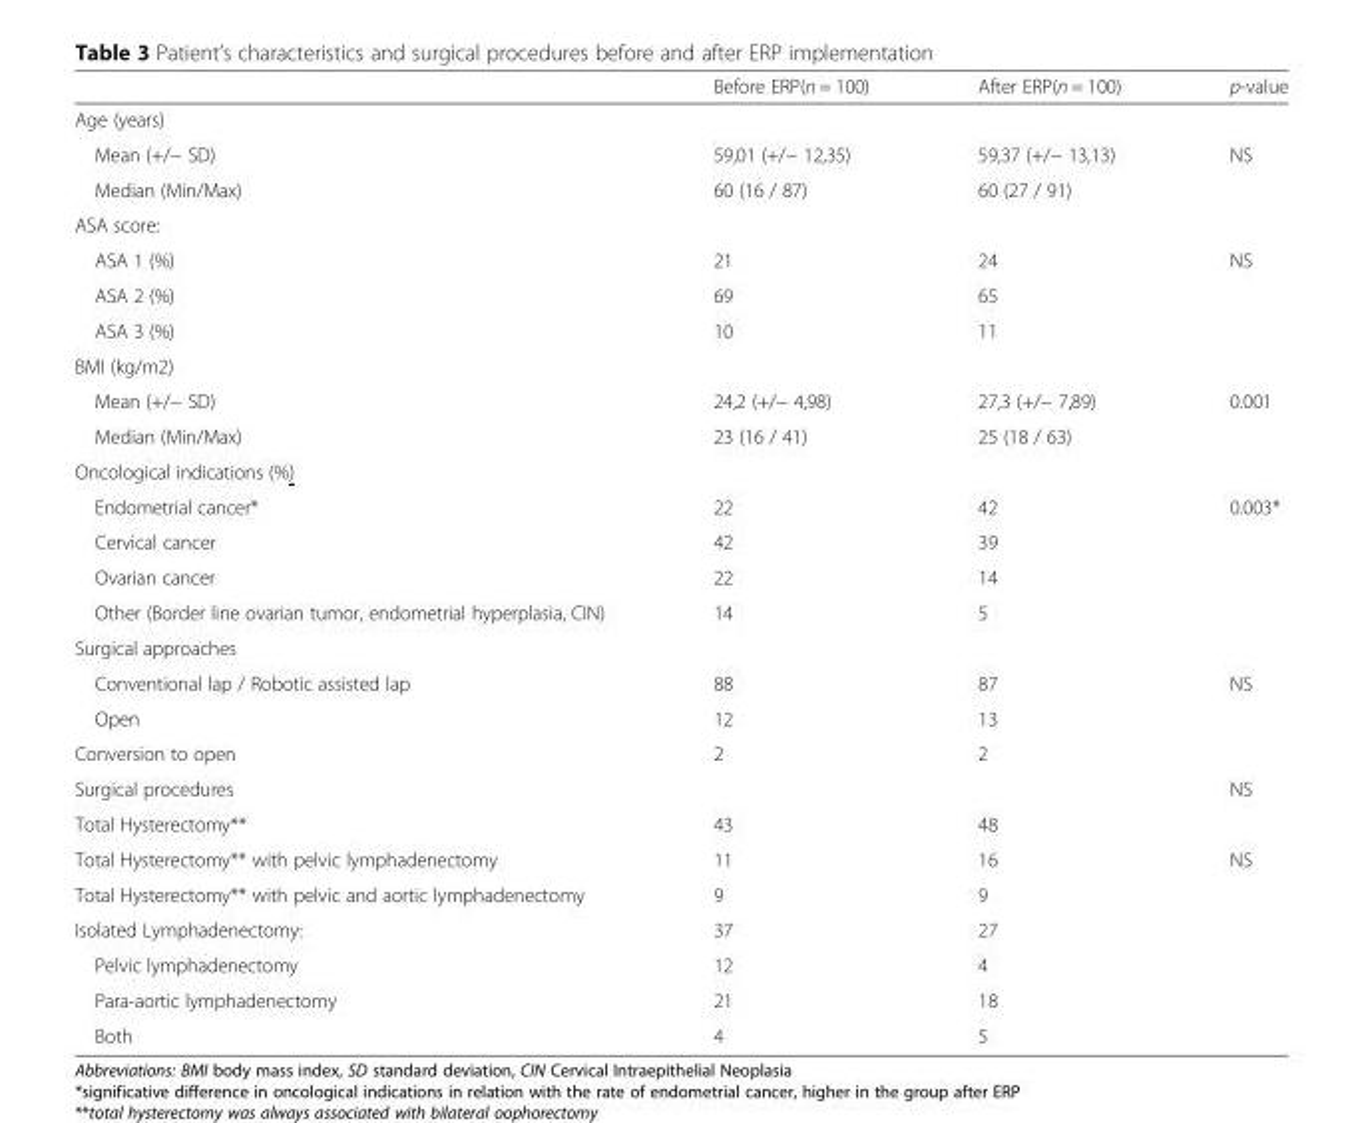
<table><thead><tr><td></td><td>Before ERP(n = 100)</td><td>After ERP(n = 100)</td><td>p-value</td></tr></thead><tbody><tr><td colspan="4">Age (years)</td></tr><tr><td>Mean (+/− SD)</td><td>59,01 (+/− 12,35)</td><td>59,37 (+/− 13,13)</td><td>NS</td></tr><tr><td>Median (Min/Max)</td><td>60 (16 / 87)</td><td>60 (27 / 91)</td><td></td></tr><tr><td colspan="4">ASA score:</td></tr><tr><td>ASA 1 (%)</td><td>21</td><td>24</td><td>NS</td></tr><tr><td>ASA 2 (%)</td><td>69</td><td>65</td><td></td></tr><tr><td>ASA 3 (%)</td><td>10</td><td>11</td><td></td></tr><tr><td colspan="4">BMI (kg/m2)</td></tr><tr><td>Mean (+/− SD)</td><td>24,2 (+/− 4,98)</td><td>27,3 (+/− 7,89)</td><td>0.001</td></tr><tr><td>Median (Min/Max)</td><td>23 (16 / 41)</td><td>25 (18 / 63)</td><td></td></tr><tr><td colspan="4">Oncological indications (%)</td></tr><tr><td>Endometrial cancer*</td><td>22</td><td>42</td><td>0.003*</td></tr><tr><td>Cervical cancer</td><td>42</td><td>39</td><td></td></tr><tr><td>Ovarian cancer</td><td>22</td><td>14</td><td></td></tr><tr><td>Other (Border line ovarian tumor, endometrial hyperplasia, CIN)</td><td>14</td><td>5</td><td></td></tr><tr><td colspan="4">Surgical approaches</td></tr><tr><td>Conventional lap / Robotic assisted lap</td><td>88</td><td>87</td><td>NS</td></tr><tr><td>Open</td><td>12</td><td>13</td><td></td></tr><tr><td>Conversion to open</td><td>2</td><td>2</td><td></td></tr><tr><td>Surgical procedures</td><td></td><td></td><td>NS</td></tr><tr><td>Total Hysterectomy**</td><td>43</td><td>48</td><td></td></tr><tr><td>Total Hysterectomy** with pelvic lymphadenectomy</td><td>11</td><td>16</td><td>NS</td></tr><tr><td>Total Hysterectomy** with pelvic and aortic lymphadenectomy</td><td>9</td><td>9</td><td></td></tr><tr><td>Isolated Lymphadenectomy:</td><td>37</td><td>27</td><td></td></tr><tr><td>Pelvic lymphadenectomy</td><td>12</td><td>4</td><td></td></tr><tr><td>Para-aortic lymphadenectomy</td><td>21</td><td>18</td><td></td></tr><tr><td>Both</td><td>4</td><td>5</td><td></td></tr></tbody></table>